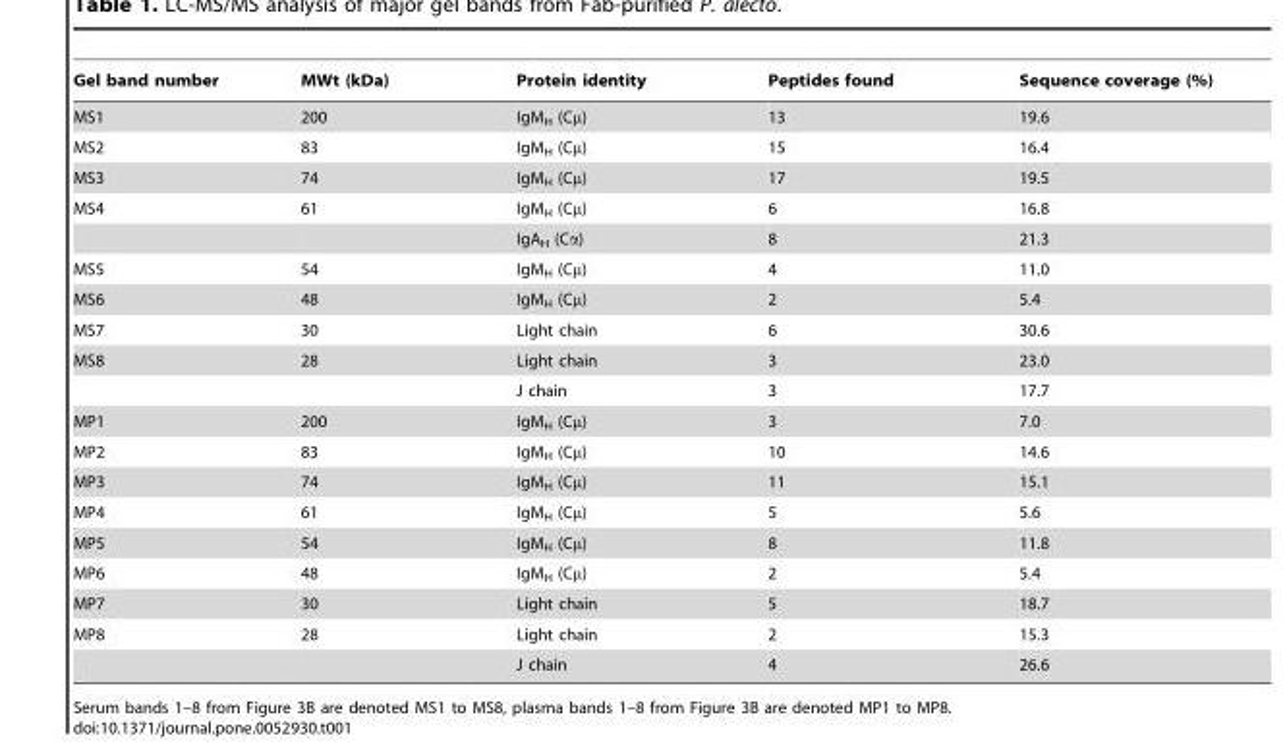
<table><thead><tr><td>Gel band number</td><td>MWt (kDa)</td><td>Protein identity</td><td>Peptides found</td><td>Sequence coverage (%)</td></tr></thead><tbody><tr><td>MS1</td><td>200</td><td>IgM<sub>H</sub> (Cμ)</td><td>13</td><td>19.6</td></tr><tr><td>MS2</td><td>83</td><td>IgM<sub>H</sub> (Cμ)</td><td>15</td><td>16.4</td></tr><tr><td>MS3</td><td>74</td><td>IgM<sub>H</sub> (Cμ)</td><td>17</td><td>19.5</td></tr><tr><td rowspan="2">MS4</td><td>61</td><td>IgM<sub>H</sub> (Cμ)</td><td>6</td><td>16.8</td></tr><tr><td></td><td>IgA<sub>H</sub> (Cα)</td><td>8</td><td>21.3</td></tr><tr><td>MS5</td><td>54</td><td>IgM<sub>H</sub> (Cμ)</td><td>4</td><td>11.0</td></tr><tr><td>MS6</td><td>48</td><td>IgM<sub>H</sub> (Cμ)</td><td>2</td><td>5.4</td></tr><tr><td>MS7</td><td>30</td><td>Light chain</td><td>6</td><td>30.6</td></tr><tr><td rowspan="2">MS8</td><td>28</td><td>Light chain</td><td>3</td><td>23.0</td></tr><tr><td></td><td>J chain</td><td>3</td><td>17.7</td></tr><tr><td>MP1</td><td>200</td><td>IgM<sub>H</sub> (Cμ)</td><td>3</td><td>7.0</td></tr><tr><td>MP2</td><td>83</td><td>IgM<sub>H</sub> (Cμ)</td><td>10</td><td>14.6</td></tr><tr><td>MP3</td><td>74</td><td>IgM<sub>H</sub> (Cμ)</td><td>11</td><td>15.1</td></tr><tr><td>MP4</td><td>61</td><td>IgM<sub>H</sub> (Cμ)</td><td>5</td><td>5.6</td></tr><tr><td>MP5</td><td>54</td><td>IgM<sub>H</sub> (Cμ)</td><td>8</td><td>11.8</td></tr><tr><td>MP6</td><td>48</td><td>IgM<sub>H</sub> (Cμ)</td><td>2</td><td>5.4</td></tr><tr><td>MP7</td><td>30</td><td>Light chain</td><td>5</td><td>18.7</td></tr><tr><td rowspan="2">MP8</td><td>28</td><td>Light chain</td><td>2</td><td>15.3</td></tr><tr><td></td><td>J chain</td><td>4</td><td>26.6</td></tr></tbody></table>